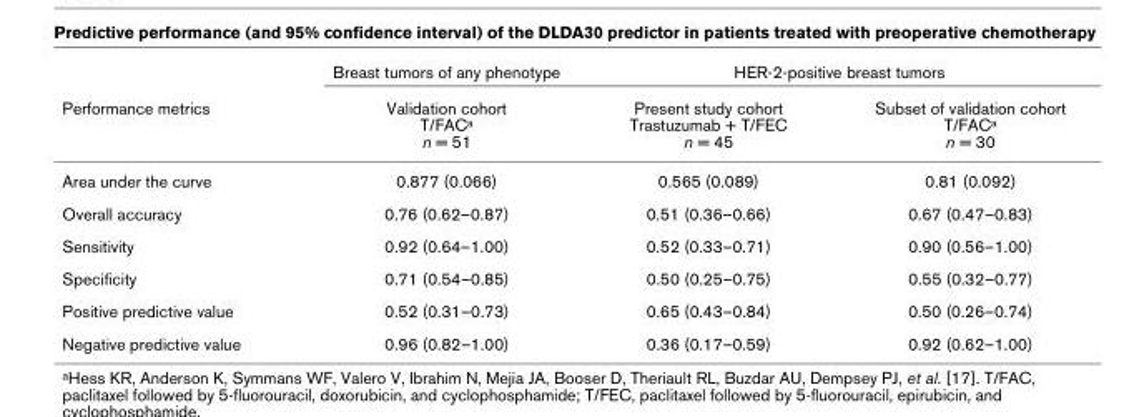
<table><thead><tr><td rowspan="2">Performance metrics</td><td rowspan="2">Breast tumors of any phenotype Validation cohort T/FAC<sup>a</sup> n = 51</td><td colspan="2">HER-2-positive breast tumors</td></tr><tr><td>Present study cohort Trastuzumab + T/FEC n = 45</td><td>Subset of validation cohort T/FAC<sup>a</sup> n = 30</td></tr></thead><tbody><tr><td>Area under the curve</td><td>0.877 (0.066)</td><td>0.565 (0.089)</td><td>0.81 (0.092)</td></tr><tr><td>Overall accuracy</td><td>0.76 (0.62–0.87)</td><td>0.51 (0.36–0.66)</td><td>0.67 (0.47–0.83)</td></tr><tr><td>Sensitivity</td><td>0.92 (0.64–1.00)</td><td>0.52 (0.33–0.71)</td><td>0.90 (0.56–1.00)</td></tr><tr><td>Specificity</td><td>0.71 (0.54–0.85)</td><td>0.50 (0.25–0.75)</td><td>0.55 (0.32–0.77)</td></tr><tr><td>Positive predictive value</td><td>0.52 (0.31–0.73)</td><td>0.65 (0.43–0.84)</td><td>0.50 (0.26–0.74)</td></tr><tr><td>Negative predictive value</td><td>0.96 (0.82–1.00)</td><td>0.36 (0.17–0.59)</td><td>0.92 (0.62–1.00)</td></tr></tbody></table>